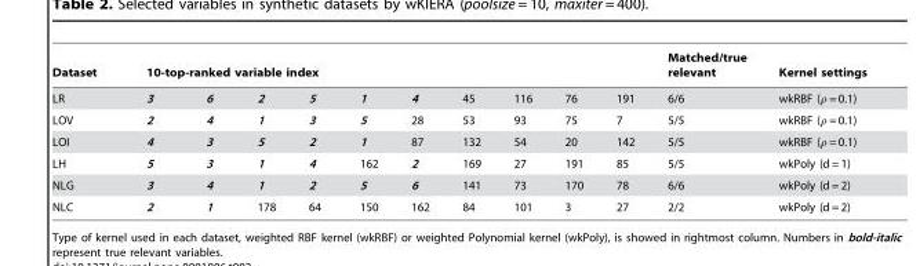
<table><thead><tr><td rowspan="2">Dataset LR</td><td colspan="10">10-top-ranked variable index</td><td rowspan="2">Matched/true relevant 6/6</td><td rowspan="2">Kernel settings wkRBF (ρ = 0.1)</td></tr><tr><td>3</td><td>6</td><td>2</td><td>5</td><td>1</td><td>4</td><td>45</td><td>116</td><td>76</td><td>191</td></tr></thead><tbody><tr><td>LOV</td><td>2</td><td>4</td><td>1</td><td>3</td><td>5</td><td>28</td><td>53</td><td>93</td><td>75</td><td>7</td><td>5/5</td><td>wkRBF (ρ = 0.1)</td></tr><tr><td>LOI</td><td>4</td><td>3</td><td>5</td><td>2</td><td>1</td><td>87</td><td>132</td><td>54</td><td>20</td><td>142</td><td>5/5</td><td>wkRBF (ρ = 0.1)</td></tr><tr><td>LH</td><td>5</td><td>3</td><td>1</td><td>4</td><td>162</td><td>2</td><td>169</td><td>27</td><td>191</td><td>85</td><td>5/5</td><td>wkPoly (d = 1)</td></tr><tr><td>NLG</td><td>3</td><td>4</td><td>1</td><td>2</td><td>5</td><td>6</td><td>141</td><td>73</td><td>170</td><td>78</td><td>6/6</td><td>wkPoly (d = 2)</td></tr><tr><td>NLC</td><td>2</td><td>1</td><td>178</td><td>64</td><td>150</td><td>162</td><td>84</td><td>101</td><td>3</td><td>27</td><td>2/2</td><td>wkPoly (d = 2)</td></tr></tbody></table>